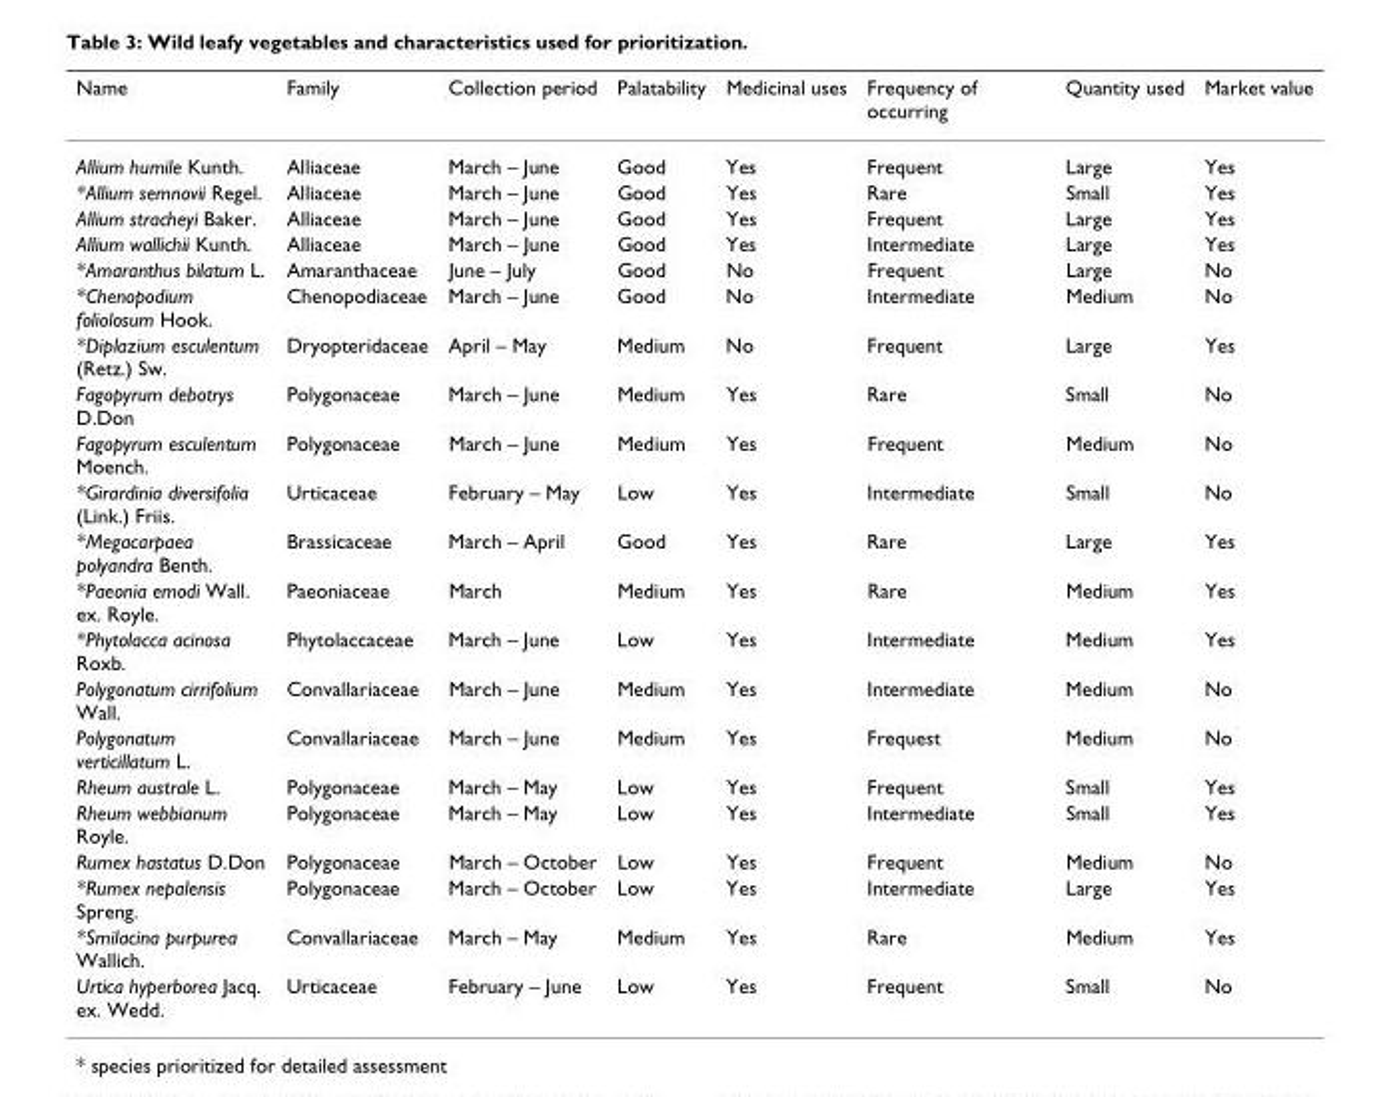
<table><thead><tr><td>Name</td><td>Family</td><td>Collection period</td><td>Palatability</td><td>Medicinal uses</td><td>Frequency of occurring</td><td>Quantity used</td><td>Market value</td></tr></thead><tbody><tr><td>Allium humile Kunth.</td><td>Alliaceae</td><td>March – June</td><td>Good</td><td>Yes</td><td>Frequent</td><td>Large</td><td>Yes</td></tr><tr><td>*Allium semnovii Regel.</td><td>Alliaceae</td><td>March – June</td><td>Good</td><td>Yes</td><td>Rare</td><td>Small</td><td>Yes</td></tr><tr><td>Allium stracheyi Baker.</td><td>Alliaceae</td><td>March – June</td><td>Good</td><td>Yes</td><td>Frequent</td><td>Large</td><td>Yes</td></tr><tr><td>Allium wallichii Kunth.</td><td>Alliaceae</td><td>March – June</td><td>Good</td><td>Yes</td><td>Intermediate</td><td>Large</td><td>Yes</td></tr><tr><td>*Amaranthus bilatum L.</td><td>Amaranthaceae</td><td>June – July</td><td>Good</td><td>No</td><td>Frequent</td><td>Large</td><td>No</td></tr><tr><td>*Chenopodium foliolosum Hook.</td><td>Chenopodiaceae</td><td>March – June</td><td>Good</td><td>No</td><td>Intermediate</td><td>Medium</td><td>No</td></tr><tr><td>*Diplazium esculentum (Retz.) Sw.</td><td>Dryopteridaceae</td><td>April – May</td><td>Medium</td><td>No</td><td>Frequent</td><td>Large</td><td>Yes</td></tr><tr><td>Fagopyrum debotrys D.Don</td><td>Polygonaceae</td><td>March – June</td><td>Medium</td><td>Yes</td><td>Rare</td><td>Small</td><td>No</td></tr><tr><td>Fagopyrum esculentum Moench.</td><td>Polygonaceae</td><td>March – June</td><td>Medium</td><td>Yes</td><td>Frequent</td><td>Medium</td><td>No</td></tr><tr><td>*Girardinia diversifolia (Link.) Friis.</td><td>Urticaceae</td><td>February – May</td><td>Low</td><td>Yes</td><td>Intermediate</td><td>Small</td><td>No</td></tr><tr><td>*Megacarpaea polyandra Benth.</td><td>Brassicaceae</td><td>March – April</td><td>Good</td><td>Yes</td><td>Rare</td><td>Large</td><td>Yes</td></tr><tr><td>*Paeonia emodi Wall. ex. Royle.</td><td>Paeoniaceae</td><td>March</td><td>Medium</td><td>Yes</td><td>Rare</td><td>Medium</td><td>Yes</td></tr><tr><td>*Phytolacca acinosa Roxb.</td><td>Phytolaccaceae</td><td>March – June</td><td>Low</td><td>Yes</td><td>Intermediate</td><td>Medium</td><td>Yes</td></tr><tr><td>Polygonatum cirrifolium Wall.</td><td>Convallariaceae</td><td>March – June</td><td>Medium</td><td>Yes</td><td>Intermediate</td><td>Medium</td><td>No</td></tr><tr><td>Polygonatum verticillatum L.</td><td>Convallariaceae</td><td>March – June</td><td>Medium</td><td>Yes</td><td>Frequest</td><td>Medium</td><td>No</td></tr><tr><td>Rheum australe L.</td><td>Polygonaceae</td><td>March – May</td><td>Low</td><td>Yes</td><td>Frequent</td><td>Small</td><td>Yes</td></tr><tr><td>Rheum webbianum Royle.</td><td>Polygonaceae</td><td>March – May</td><td>Low</td><td>Yes</td><td>Intermediate</td><td>Small</td><td>Yes</td></tr><tr><td>Rumex hastatus D.Don</td><td>Polygonaceae</td><td>March – October</td><td>Low</td><td>Yes</td><td>Frequent</td><td>Medium</td><td>No</td></tr><tr><td>*Rumex nepalensis Spreng.</td><td>Polygonaceae</td><td>March – October</td><td>Low</td><td>Yes</td><td>Intermediate</td><td>Large</td><td>Yes</td></tr><tr><td>*Smilacina purpurea Wallich.</td><td>Convallariaceae</td><td>March – May</td><td>Medium</td><td>Yes</td><td>Rare</td><td>Medium</td><td>Yes</td></tr><tr><td>Urtica hyperborea Jacq. ex. Wedd.</td><td>Urticaceae</td><td>February – June</td><td>Low</td><td>Yes</td><td>Frequent</td><td>Small</td><td>No</td></tr></tbody></table>